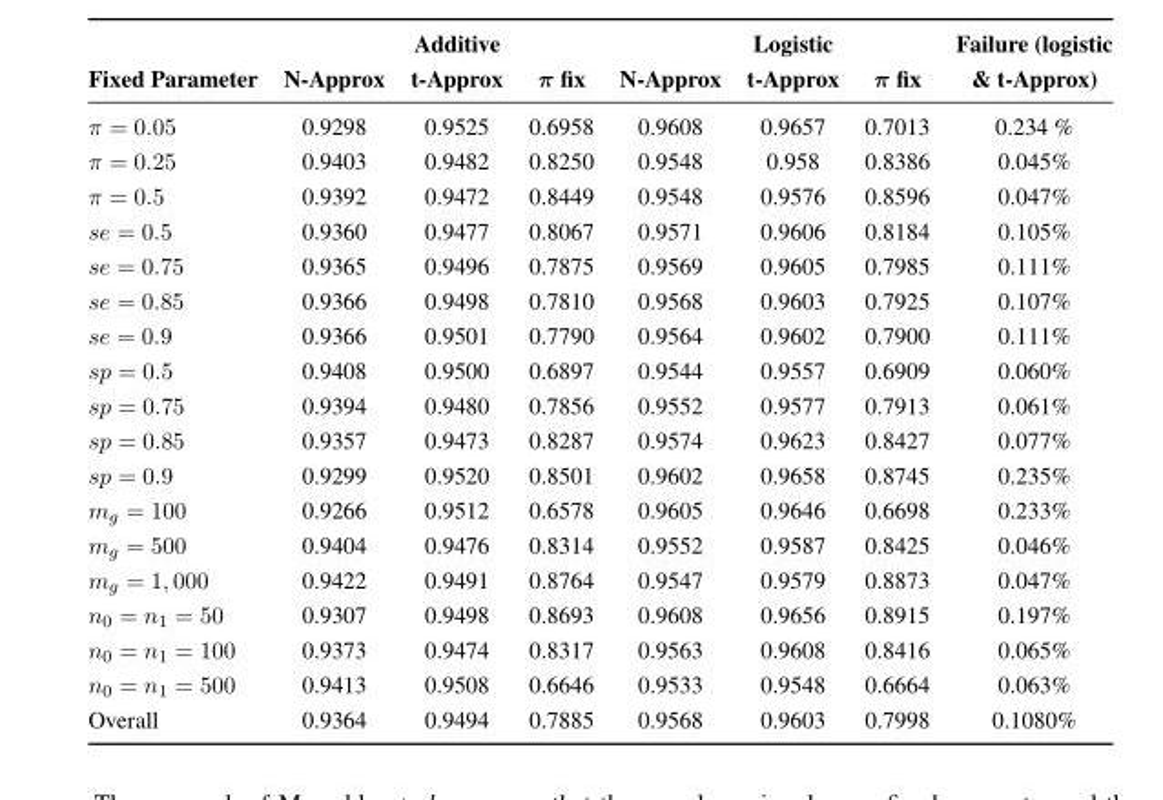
<table><thead><tr><td>Fixed Parameter</td><td>N-Approx</td><td>t-Approx</td><td>π fix</td><td>N-Approx</td><td>t-Approx</td><td>π fix</td><td>&amp; t-Approx)</td></tr></thead><tbody><tr><td>π = 0.05</td><td>0.9298</td><td>0.9525</td><td>0.6958</td><td>0.9608</td><td>0.9657</td><td>0.7013</td><td>0.234 %</td></tr><tr><td>π = 0.25</td><td>0.9403</td><td>0.9482</td><td>0.8250</td><td>0.9548</td><td>0.958</td><td>0.8386</td><td>0.045%</td></tr><tr><td>π = 0.5</td><td>0.9392</td><td>0.9472</td><td>0.8449</td><td>0.9548</td><td>0.9576</td><td>0.8596</td><td>0.047%</td></tr><tr><td>se = 0.5</td><td>0.9360</td><td>0.9477</td><td>0.8067</td><td>0.9571</td><td>0.9606</td><td>0.8184</td><td>0.105%</td></tr><tr><td>se = 0.75</td><td>0.9365</td><td>0.9496</td><td>0.7875</td><td>0.9569</td><td>0.9605</td><td>0.7985</td><td>0.111%</td></tr><tr><td>se = 0.85</td><td>0.9366</td><td>0.9498</td><td>0.7810</td><td>0.9568</td><td>0.9603</td><td>0.7925</td><td>0.107%</td></tr><tr><td>se = 0.9</td><td>0.9366</td><td>0.9501</td><td>0.7790</td><td>0.9564</td><td>0.9602</td><td>0.7900</td><td>0.111%</td></tr><tr><td>sp = 0.5</td><td>0.9408</td><td>0.9500</td><td>0.6897</td><td>0.9544</td><td>0.9557</td><td>0.6909</td><td>0.060%</td></tr><tr><td>sp = 0.75</td><td>0.9394</td><td>0.9480</td><td>0.7856</td><td>0.9552</td><td>0.9577</td><td>0.7913</td><td>0.061%</td></tr><tr><td>sp = 0.85</td><td>0.9357</td><td>0.9473</td><td>0.8287</td><td>0.9574</td><td>0.9623</td><td>0.8427</td><td>0.077%</td></tr><tr><td>sp = 0.9</td><td>0.9299</td><td>0.9520</td><td>0.8501</td><td>0.9602</td><td>0.9658</td><td>0.8745</td><td>0.235%</td></tr><tr><td>m<sub>g</sub> = 100</td><td>0.9266</td><td>0.9512</td><td>0.6578</td><td>0.9605</td><td>0.9646</td><td>0.6698</td><td>0.233%</td></tr><tr><td>m<sub>g</sub> = 500</td><td>0.9404</td><td>0.9476</td><td>0.8314</td><td>0.9552</td><td>0.9587</td><td>0.8425</td><td>0.046%</td></tr><tr><td>m<sub>g</sub> = 1, 000</td><td>0.9422</td><td>0.9491</td><td>0.8764</td><td>0.9547</td><td>0.9579</td><td>0.8873</td><td>0.047%</td></tr><tr><td>n<sub>0</sub> = n<sub>1</sub> = 50</td><td>0.9307</td><td>0.9498</td><td>0.8693</td><td>0.9608</td><td>0.9656</td><td>0.8915</td><td>0.197%</td></tr><tr><td>n<sub>0</sub> = n<sub>1</sub> = 100</td><td>0.9373</td><td>0.9474</td><td>0.8317</td><td>0.9563</td><td>0.9608</td><td>0.8416</td><td>0.065%</td></tr><tr><td>n<sub>0</sub> = n<sub>1</sub> = 500</td><td>0.9413</td><td>0.9508</td><td>0.6646</td><td>0.9533</td><td>0.9548</td><td>0.6664</td><td>0.063%</td></tr><tr><td>Overall</td><td>0.9364</td><td>0.9494</td><td>0.7885</td><td>0.9568</td><td>0.9603</td><td>0.7998</td><td>0.1080%</td></tr></tbody></table>